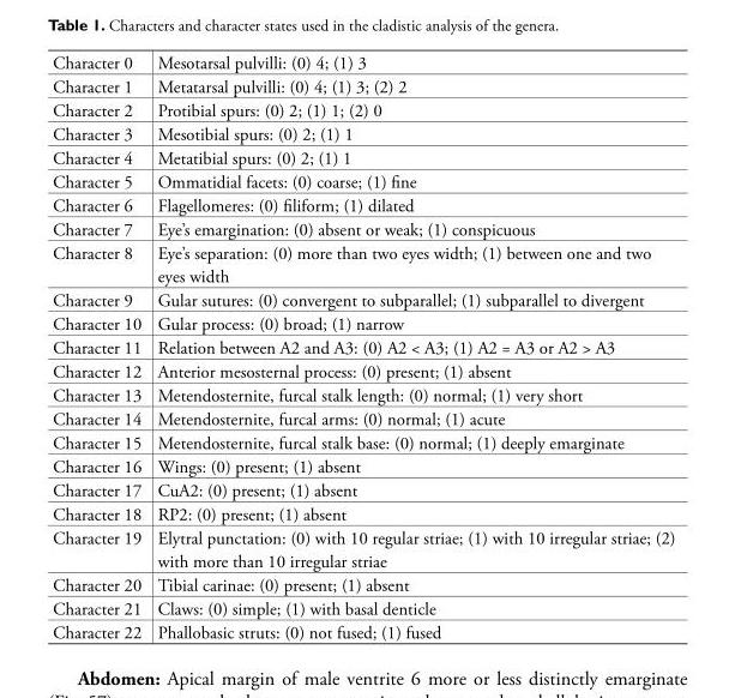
<table><tbody><tr><td>Character 0</td><td>Mesotarsal pulvilli: (0) 4; (1) 3</td></tr><tr><td>Character 1</td><td>Metatarsal pulvilli: (0) 4; (1) 3; (2) 2</td></tr><tr><td>Character 2</td><td>Protibial spurs: (0) 2; (1) 1; (2) 0</td></tr><tr><td>Character 3</td><td>Mesotibial spurs: (0) 2; (1) 1</td></tr><tr><td>Character 4</td><td>Metatibial spurs: (0) 2; (1) 1</td></tr><tr><td>Character 5</td><td>Ommatidial facets: (0) coarse; (1) fi ne</td></tr><tr><td>Character 6</td><td>Flagellomeres: (0) fi liform; (1) dilated</td></tr><tr><td>Character 7</td><td>Eye’s emargination: (0) absent or weak; (1) conspicuous</td></tr><tr><td>Character 8</td><td>Eye’s separation: (0) more than two eyes width; (1) between one and two eyes width</td></tr><tr><td>Character 9</td><td>Gular sutures: (0) convergent to subparallel; (1) subparallel to divergent</td></tr><tr><td>Character 10</td><td>Gular process: (0) broad; (1) narrow</td></tr><tr><td>Character 11</td><td>Relation between A2 and A3: (0) A2 &lt; A3; (1) A2 = A3 or A2 &gt; A3</td></tr><tr><td>Character 12</td><td>Anterior mesosternal process: (0) present; (1) absent</td></tr><tr><td>Character 13</td><td>Metendosternite, furcal stalk length: (0) normal; (1) very short</td></tr><tr><td>Character 14</td><td>Metendosternite, furcal arms: (0) normal; (1) acute</td></tr><tr><td>Character 15</td><td>Metendosternite, furcal stalk base: (0) normal; (1) deeply emarginate</td></tr><tr><td>Character 16</td><td>Wings: (0) present; (1) absent</td></tr><tr><td>Character 17</td><td>CuA2: (0) present; (1) absent</td></tr><tr><td>Character 18</td><td>RP2: (0) present; (1) absent</td></tr><tr><td>Character 19</td><td>Elytral punctation: (0) with 10 regular striae; (1) with 10 irregular striae; (2) with more than 10 irregular striae</td></tr><tr><td>Character 20</td><td>Tibial carinae: (0) present; (1) absent</td></tr><tr><td>Character 21</td><td>Claws: (0) simple; (1) with basal denticle</td></tr><tr><td>Character 22</td><td>Phallobasic struts: (0) not fused; (1) fused</td></tr></tbody></table>